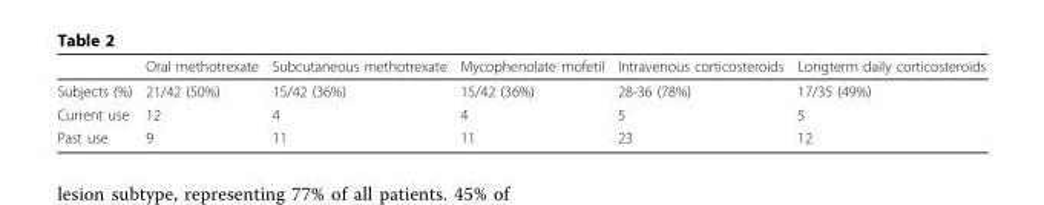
<table><thead><tr><td></td><td>Oral methotrexate</td><td>Subcutaneous methotrexate</td><td>Mycophenolate mofetil</td><td>Intravenous corticosteroids</td><td>Longterm daily corticosteroids</td></tr></thead><tbody><tr><td>Subjects (%)</td><td>21/42 (50%)</td><td>15/42 (36%)</td><td>15/42 (36%)</td><td>28-36 (78%)</td><td>17/35 (49%)</td></tr><tr><td>Current use</td><td>12</td><td>4</td><td>4</td><td>5</td><td>5</td></tr><tr><td>Past use</td><td>9</td><td>11</td><td>11</td><td>23</td><td>12</td></tr></tbody></table>